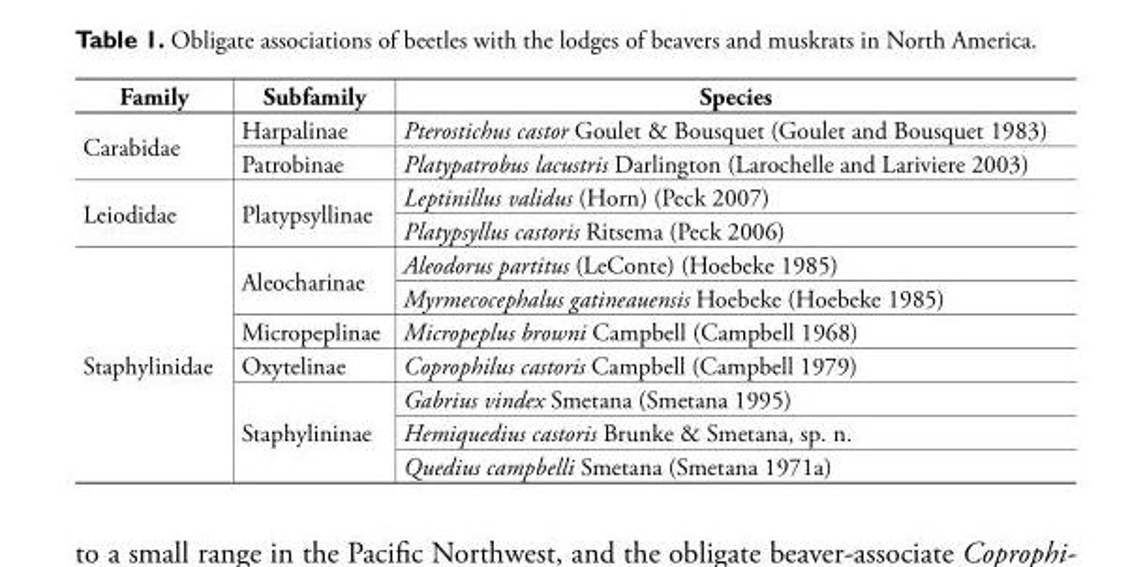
<table><thead><tr><td>Family</td><td>Subfamily</td><td>Species</td></tr></thead><tbody><tr><td rowspan="2">Carabidae</td><td>Harpalinae</td><td>Pterostichus castor Goulet &amp; Bousquet (Goulet and Bousquet 1983)</td></tr><tr><td>Patrobinae</td><td>Platypatrobus lacustris Darlington (Larochelle and Lariviere 2003)</td></tr><tr><td rowspan="2">Leiodidae</td><td rowspan="2">Platypsyllinae</td><td>Leptinillus validus (Horn) (Peck 2007)</td></tr><tr><td>Platypsyllus castoris Ritsema (Peck 2006)</td></tr><tr><td rowspan="7">Staphylinidae</td><td rowspan="2">Aleocharinae</td><td>Aleodorus partitus (LeConte) (Hoebeke 1985)</td></tr><tr><td>Myrmecocephalus gatineauensis Hoebeke (Hoebeke 1985)</td></tr><tr><td>Micropeplinae</td><td>Micropeplus browni Campbell (Campbell 1968)</td></tr><tr><td>Oxytelinae</td><td>Coprophilus castoris Campbell (Campbell 1979)</td></tr><tr><td rowspan="3">Staphylininae</td><td>Gabrius vindex Smetana (Smetana 1995)</td></tr><tr><td>Hemiquedius castoris Brunke &amp; Smetana, sp. n.</td></tr><tr><td>Quedius campbelli Smetana (Smetana 1971a)</td></tr></tbody></table>